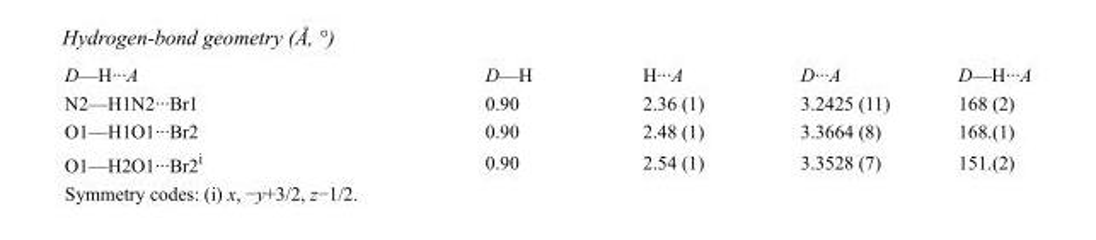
<table><tbody><tr><td>D—H···A</td><td>D—H</td><td>H···A</td><td>D···A</td><td>D—H···A</td></tr><tr><td>N2—H1N2···Br1</td><td>0.90</td><td>2.36 (1)</td><td>3.2425 (11)</td><td>168 (2)</td></tr><tr><td>O1—H1O1···Br2</td><td>0.90</td><td>2.48 (1)</td><td>3.3664 (8)</td><td>168.(1)</td></tr><tr><td>O1—H2O1···Br2<sup>i</sup></td><td>0.90</td><td>2.54 (1)</td><td>3.3528 (7)</td><td>151.(2)</td></tr></tbody></table>